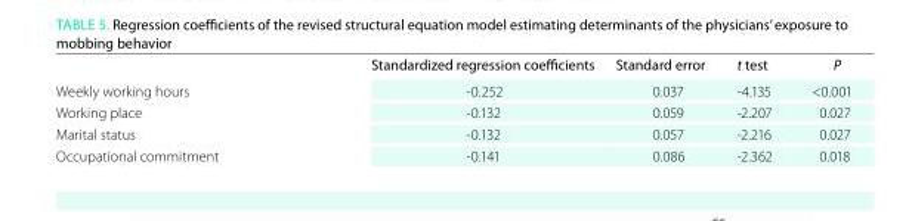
<table><thead><tr><td></td><td>Standardized regression coefficients</td><td>Standard error</td><td>t test</td><td>P</td></tr></thead><tbody><tr><td>Weekly working hours</td><td>-0.252</td><td>0.037</td><td>-4.135</td><td>&lt;0.001</td></tr><tr><td>Working place</td><td>-0.132</td><td>0.059</td><td>-2.207</td><td>0.027</td></tr><tr><td>Marital status</td><td>-0.132</td><td>0.057</td><td>-2.216</td><td>0.027</td></tr><tr><td>Occupational commitment</td><td>-0.141</td><td>0.086</td><td>-2.362</td><td>0.018</td></tr></tbody></table>